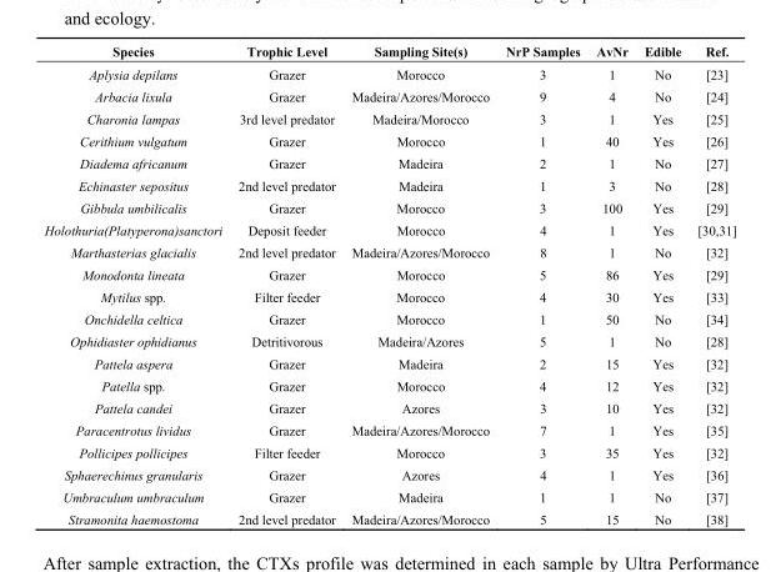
<table><thead><tr><td>Species</td><td>Trophic Level</td><td>Sampling Site(s)</td><td>NrP Samples</td><td>AvNr</td><td>Edible</td><td>Ref.</td></tr></thead><tbody><tr><td>Aplysia depilans</td><td>Grazer</td><td>Morocco</td><td>3</td><td>1</td><td>No</td><td>[23]</td></tr><tr><td>Arbacia lixula</td><td>Grazer</td><td>Madeira/Azores/Morocco</td><td>9</td><td>4</td><td>No</td><td>[24]</td></tr><tr><td>Charonia lampas</td><td>3rd level predator</td><td>Madeira/Morocco</td><td>3</td><td>1</td><td>Yes</td><td>[25]</td></tr><tr><td>Cerithium vulgatum</td><td>Grazer</td><td>Morocco</td><td>1</td><td>40</td><td>Yes</td><td>[26]</td></tr><tr><td>Diadema africanum</td><td>Grazer</td><td>Madeira</td><td>2</td><td>1</td><td>No</td><td>[27]</td></tr><tr><td>Echinaster sepositus</td><td>2nd level predator</td><td>Madeira</td><td>1</td><td>3</td><td>No</td><td>[28]</td></tr><tr><td>Gibbula umbilicalis</td><td>Grazer</td><td>Morocco</td><td>3</td><td>100</td><td>Yes</td><td>[29]</td></tr><tr><td>Holothuria(Platyperona)sanctori</td><td>Deposit feeder</td><td>Morocco</td><td>4</td><td>1</td><td>Yes</td><td>[30,31]</td></tr><tr><td>Marthasterias glacialis</td><td>2nd level predator</td><td>Madeira/Azores/Morocco</td><td>8</td><td>1</td><td>No</td><td>[32]</td></tr><tr><td>Monodonta lineata</td><td>Grazer</td><td>Morocco</td><td>5</td><td>86</td><td>Yes</td><td>[29]</td></tr><tr><td>Mytilus spp.</td><td>Filter feeder</td><td>Morocco</td><td>4</td><td>30</td><td>Yes</td><td>[33]</td></tr><tr><td>Onchidella celtica</td><td>Grazer</td><td>Morocco</td><td>1</td><td>50</td><td>No</td><td>[34]</td></tr><tr><td>Ophidiaster ophidianus</td><td>Detritivorous</td><td>Madeira/Azores</td><td>5</td><td>1</td><td>No</td><td>[28]</td></tr><tr><td>Pattela aspera</td><td>Grazer</td><td>Madeira</td><td>2</td><td>15</td><td>Yes</td><td>[32]</td></tr><tr><td>Patella spp.</td><td>Grazer</td><td>Morocco</td><td>4</td><td>12</td><td>Yes</td><td>[32]</td></tr><tr><td>Pattela candei</td><td>Grazer</td><td>Azores</td><td>3</td><td>10</td><td>Yes</td><td>[32]</td></tr><tr><td>Paracentrotus lividus</td><td>Grazer</td><td>Madeira/Azores/Morocco</td><td>7</td><td>1</td><td>Yes</td><td>[35]</td></tr><tr><td>Pollicipes pollicipes</td><td>Filter feeder</td><td>Morocco</td><td>3</td><td>35</td><td>Yes</td><td>[32]</td></tr><tr><td>Sphaerechinus granularis</td><td>Grazer</td><td>Azores</td><td>4</td><td>1</td><td>Yes</td><td>[36]</td></tr><tr><td>Umbraculum umbraculum</td><td>Grazer</td><td>Madeira</td><td>1</td><td>1</td><td>No</td><td>[37]</td></tr><tr><td>Stramonita haemostoma</td><td>2nd level predator</td><td>Madeira/Azores/Morocco</td><td>5</td><td>15</td><td>No</td><td>[38]</td></tr></tbody></table>